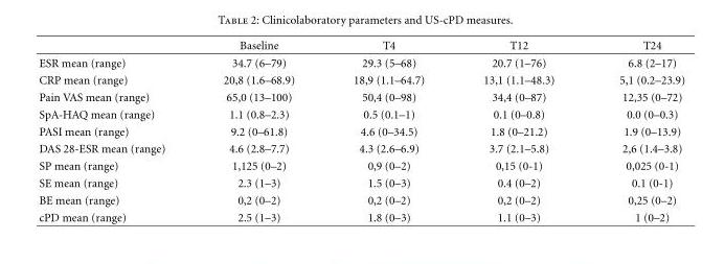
<table><thead><tr><td></td><td>Baseline</td><td>T4</td><td>T12</td><td>T24</td></tr></thead><tbody><tr><td>ESR mean (range)</td><td>34.7 (6–79)</td><td>29.3 (5–68)</td><td>20.7 (1–76)</td><td>6.8 (2–17)</td></tr><tr><td>CRP mean (range)</td><td>20,8 (1.6–68.9)</td><td>18,9 (1.1–64.7)</td><td>13,1 (1.1–48.3)</td><td>5,1 (0.2–23.9)</td></tr><tr><td>Pain VAS mean (range)</td><td>65,0 (13–100)</td><td>50,4 (0–98)</td><td>34,4 (0–87)</td><td>12,35 (0–72)</td></tr><tr><td>SpA-HAQ mean (range)</td><td>1.1 (0.8–2.3)</td><td>0.5 (0.1–1)</td><td>0.1 (0–0.8)</td><td>0.0 (0–0.3)</td></tr><tr><td>PASI mean (range)</td><td>9.2 (0–61.8)</td><td>4.6 (0–34.5)</td><td>1.8 (0–21.2)</td><td>1.9 (0–13.9)</td></tr><tr><td>DAS 28-ESR mean (range)</td><td>4.6 (2.8–7.7)</td><td>4.3 (2.6–6.9)</td><td>3.7 (2.1–5.8)</td><td>2,6 (1.4–3.8)</td></tr><tr><td>SP mean (range)</td><td>1,125 (0–2)</td><td>0,9 (0–2)</td><td>0,15 (0-1)</td><td>0,025 (0-1)</td></tr><tr><td>SE mean (range)</td><td>2.3 (1–3)</td><td>1.5 (0–3)</td><td>0.4 (0–2)</td><td>0.1 (0-1)</td></tr><tr><td>BE mean (range)</td><td>0,2 (0–2)</td><td>0,2 (0–2)</td><td>0,2 (0–2)</td><td>0,25 (0–2)</td></tr><tr><td>cPD mean (range)</td><td>2.5 (1–3)</td><td>1.8 (0–3)</td><td>1.1 (0–3)</td><td>1 (0–2)</td></tr></tbody></table>